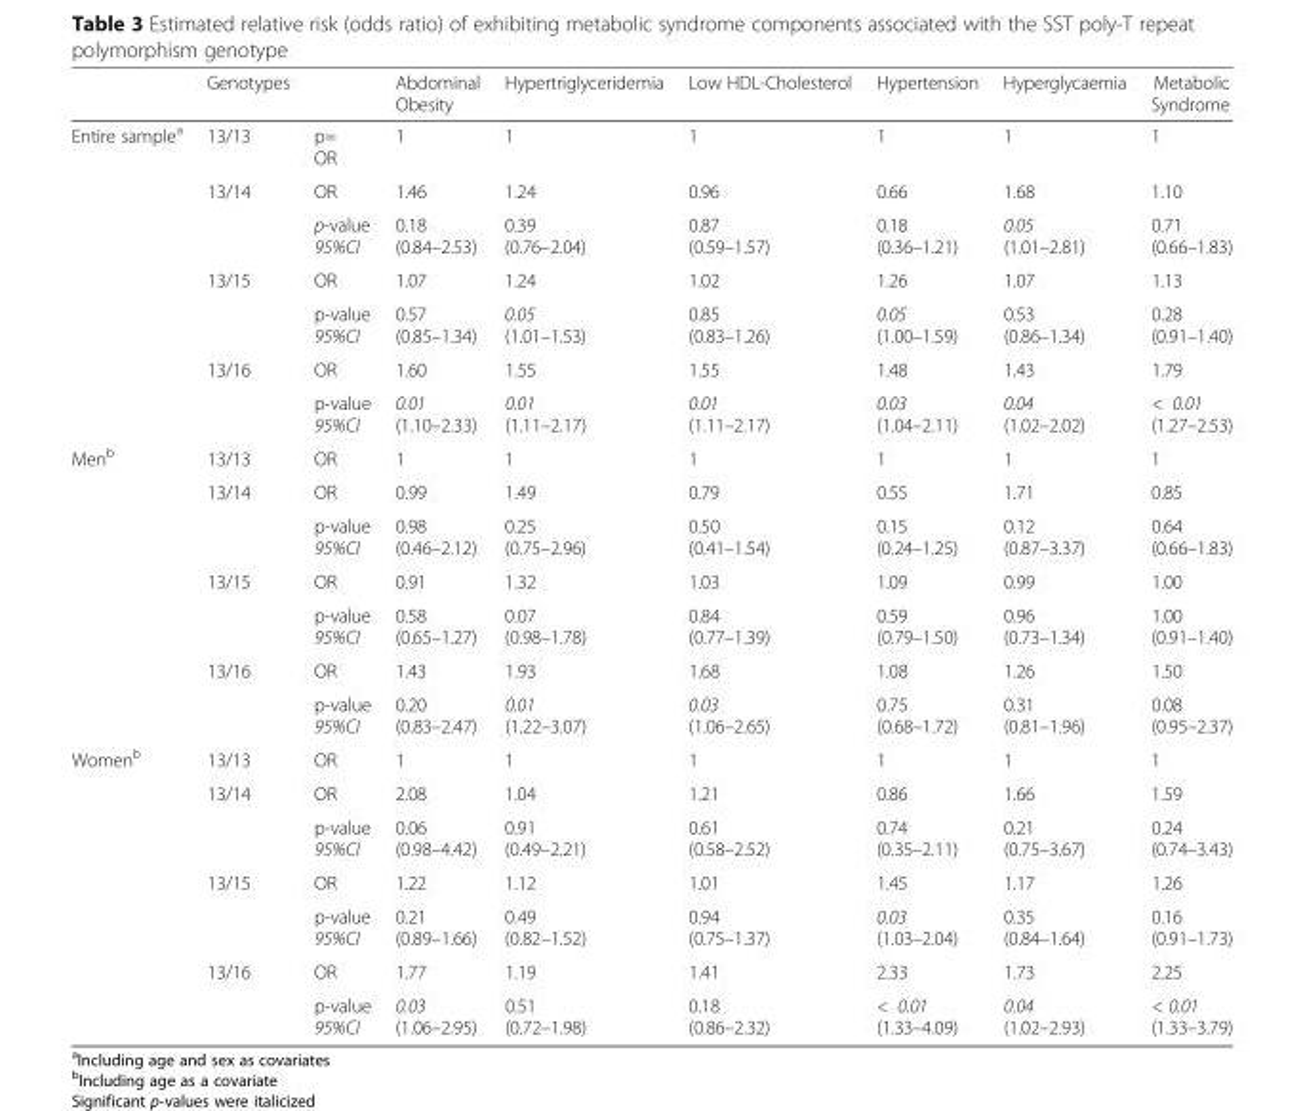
<table><thead><tr><td></td><td>Genotypes</td><td></td><td>Abdominal Obesity</td><td>Hypertriglyceridemia</td><td>Low HDL-Cholesterol</td><td>Hypertension</td><td>Hyperglycaemia</td><td>Metabolic Syndrome</td></tr></thead><tbody><tr><td rowspan="7">Entire sample<sup>a</sup></td><td>13/13</td><td>p= OR</td><td>1</td><td>1</td><td>1</td><td>1</td><td>1</td><td>1</td></tr><tr><td rowspan="2">13/14</td><td>OR</td><td>1.46</td><td>1.24</td><td>0.96</td><td>0.66</td><td>1.68</td><td>1.10</td></tr><tr><td>p-value 95%CI</td><td>0.18 (0.84–2.53)</td><td>0.39 (0.76–2.04)</td><td>0.87 (0.59–1.57)</td><td>0.18 (0.36–1.21)</td><td>0.05 (1.01–2.81)</td><td>0.71 (0.66–1.83)</td></tr><tr><td rowspan="2">13/15</td><td>OR</td><td>1.07</td><td>1.24</td><td>1.02</td><td>1.26</td><td>1.07</td><td>1.13</td></tr><tr><td>p-value 95%CI</td><td>0.57 (0.85–1.34)</td><td>0.05 (1.01–1.53)</td><td>0.85 (0.83–1.26)</td><td>0.05 (1.00–1.59)</td><td>0.53 (0.86–1.34)</td><td>0.28 (0.91–1.40)</td></tr><tr><td rowspan="2">13/16</td><td>OR</td><td>1.60</td><td>1.55</td><td>1.55</td><td>1.48</td><td>1.43</td><td>1.79</td></tr><tr><td>p-value 95%CI</td><td>0.01 (1.10–2.33)</td><td>0.01 (1.11–2.17)</td><td>0.01 (1.11–2.17)</td><td>0.03 (1.04–2.11)</td><td>0.04 (1.02–2.02)</td><td>&lt; 0.01 (1.27–2.53)</td></tr><tr><td rowspan="7">Men<sup>b</sup></td><td>13/13</td><td>OR</td><td>1</td><td>1</td><td>1</td><td>1</td><td>1</td><td>1</td></tr><tr><td rowspan="2">13/14</td><td>OR</td><td>0.99</td><td>1.49</td><td>0.79</td><td>0.55</td><td>1.71</td><td>0.85</td></tr><tr><td>p-value 95%CI</td><td>0.98 (0.46–2.12)</td><td>0.25 (0.75–2.96)</td><td>0.50 (0.41–1.54)</td><td>0.15 (0.24–1.25)</td><td>0.12 (0.87–3.37)</td><td>0.64 (0.66–1.83)</td></tr><tr><td rowspan="2">13/15</td><td>OR</td><td>0.91</td><td>1.32</td><td>1.03</td><td>1.09</td><td>0.99</td><td>1.00</td></tr><tr><td>p-value 95%CI</td><td>0.58 (0.65–1.27)</td><td>0.07 (0.98–1.78)</td><td>0.84 (0.77–1.39)</td><td>0.59 (0.79–1.50)</td><td>0.96 (0.73–1.34)</td><td>1.00 (0.91–1.40)</td></tr><tr><td rowspan="2">13/16</td><td>OR</td><td>1.43</td><td>1.93</td><td>1.68</td><td>1.08</td><td>1.26</td><td>1.50</td></tr><tr><td>p-value 95%CI</td><td>0.20 (0.83–2.47)</td><td>0.01 (1.22–3.07)</td><td>0.03 (1.06–2.65)</td><td>0.75 (0.68–1.72)</td><td>0.31 (0.81–1.96)</td><td>0.08 (0.95–2.37)</td></tr><tr><td rowspan="7">Women<sup>b</sup></td><td>13/13</td><td>OR</td><td>1</td><td>1</td><td>1</td><td>1</td><td>1</td><td>1</td></tr><tr><td rowspan="2">13/14</td><td>OR</td><td>2.08</td><td>1.04</td><td>1.21</td><td>0.86</td><td>1.66</td><td>1.59</td></tr><tr><td>p-value 95%CI</td><td>0.06 (0.98–4.42)</td><td>0.91 (0.49–2.21)</td><td>0.61 (0.58–2.52)</td><td>0.74 (0.35–2.11)</td><td>0.21 (0.75–3.67)</td><td>0.24 (0.74–3.43)</td></tr><tr><td rowspan="2">13/15</td><td>OR</td><td>1.22</td><td>1.12</td><td>1.01</td><td>1.45</td><td>1.17</td><td>1.26</td></tr><tr><td>p-value 95%CI</td><td>0.21 (0.89–1.66)</td><td>0.49 (0.82–1.52)</td><td>0.94 (0.75–1.37)</td><td>0.03 (1.03–2.04)</td><td>0.35 (0.84–1.64)</td><td>0.16 (0.91–1.73)</td></tr><tr><td rowspan="2">13/16</td><td>OR</td><td>1.77</td><td>1.19</td><td>1.41</td><td>2.33</td><td>1.73</td><td>2.25</td></tr><tr><td>p-value 95%CI</td><td>0.03 (1.06–2.95)</td><td>0.51 (0.72–1.98)</td><td>0.18 (0.86–2.32)</td><td>&lt; 0.01 (1.33–4.09)</td><td>0.04 (1.02–2.93)</td><td>&lt; 0.01 (1.33–3.79)</td></tr></tbody></table>